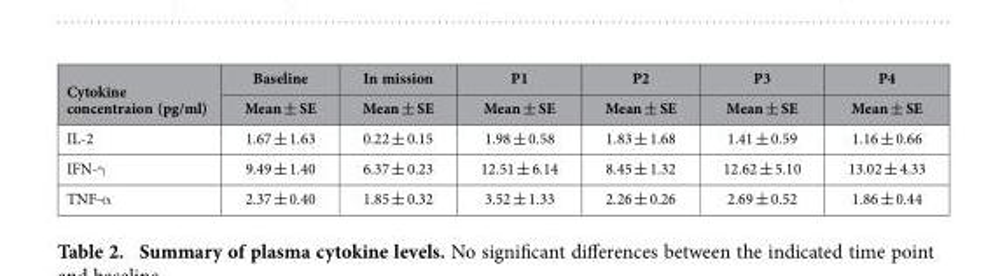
<table><thead><tr><td rowspan="2">Cytokine concentraion (pg/ml)</td><td rowspan="2">Baseline Mean ± SE</td><td rowspan="2">In mission Mean ± SE</td><td rowspan="2">P1 Mean ± SE</td><td rowspan="2">P2 Mean ± SE</td><td rowspan="2">P3 Mean ± SE</td><td rowspan="2">P4 Mean ± SE</td></tr><tr></tr></thead><tbody><tr><td>IL-2</td><td>1.67 ± 1.63</td><td>0.22 ± 0.15</td><td>1.98 ± 0.58</td><td>1.83 ± 1.68</td><td>1.41 ± 0.59</td><td>1.16 ± 0.66</td></tr><tr><td>IFN-γ</td><td>9.49 ± 1.40</td><td>6.37 ± 0.23</td><td>12.51 ± 6.14</td><td>8.45 ± 1.32</td><td>12.62 ± 5.10</td><td>13.02 ± 4.33</td></tr><tr><td>TNF-α</td><td>2.37 ± 0.40</td><td>1.85 ± 0.32</td><td>3.52 ± 1.33</td><td>2.26 ± 0.26</td><td>2.69 ± 0.52</td><td>1.86 ± 0.44</td></tr></tbody></table>